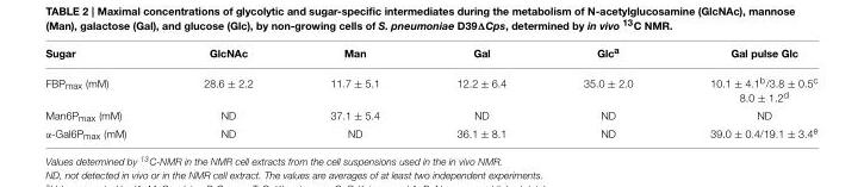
<table><thead><tr><td>Sugar</td><td>GlcNAc</td><td>Man</td><td>Gal</td><td>Glc<sup>a</sup></td><td>Gal pulse Glc</td></tr></thead><tbody><tr><td>FBP<sub>max</sub> (mM)</td><td>28.6 ± 2.2</td><td>11.7 ± 5.1</td><td>12.2 ± 6.4</td><td>35.0 ± 2.0</td><td>10.1 ± 4.1<sup>b</sup>/3.8 ± 0.5<sup>c</sup> 8.0 ± 1.2<sup>d</sup></td></tr><tr><td>Man6P<sub>max</sub> (mM)</td><td>ND</td><td>37.1 ± 5.4</td><td>ND</td><td>ND</td><td>ND</td></tr><tr><td>α-Gal6P<sub>max</sub> (mM)</td><td>ND</td><td>ND</td><td>36.1 ± 8.1</td><td>ND</td><td>39.0 ± 0.4/19.1 ± 3.4<sup>e</sup></td></tr></tbody></table>